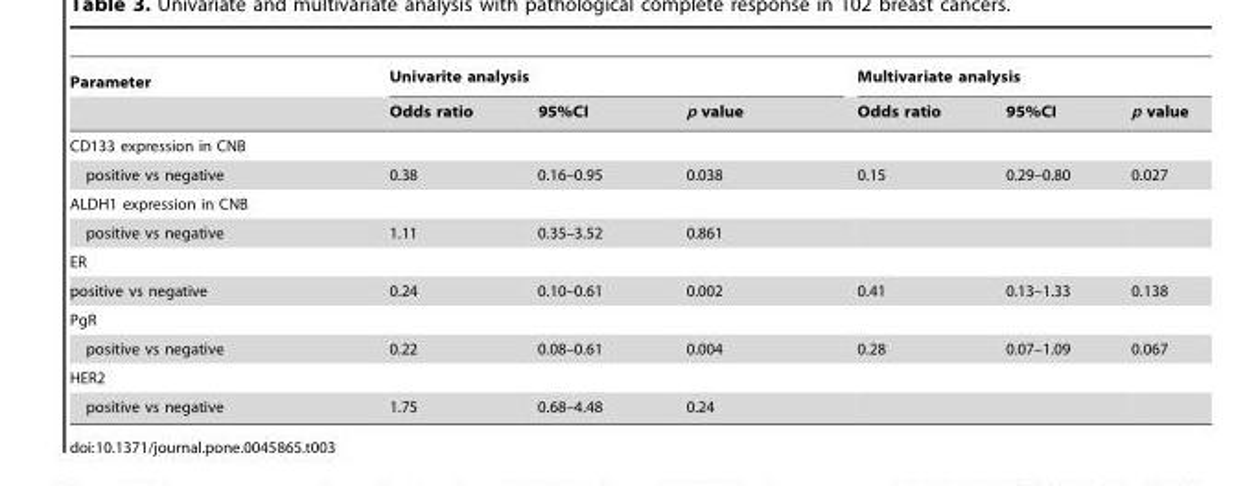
<table><thead><tr><td rowspan="2">Parameter</td><td colspan="3">Univarite analysis</td><td colspan="3">Multivariate analysis</td></tr><tr><td>Odds ratio</td><td>95%CI</td><td>p value</td><td>Odds ratio</td><td>95%CI</td><td>p value</td></tr></thead><tbody><tr><td colspan="7">CD133 expression in CNB</td></tr><tr><td>positive vs negative</td><td>0.38</td><td>0.16–0.95</td><td>0.038</td><td>0.15</td><td>0.29–0.80</td><td>0.027</td></tr><tr><td colspan="7">ALDH1 expression in CNB</td></tr><tr><td>positive vs negative</td><td>1.11</td><td>0.35–3.52</td><td>0.861</td><td></td><td></td><td></td></tr><tr><td colspan="7">ER</td></tr><tr><td>positive vs negative</td><td>0.24</td><td>0.10–0.61</td><td>0.002</td><td>0.41</td><td>0.13–1.33</td><td>0.138</td></tr><tr><td colspan="7">PgR</td></tr><tr><td>positive vs negative</td><td>0.22</td><td>0.08–0.61</td><td>0.004</td><td>0.28</td><td>0.07–1.09</td><td>0.067</td></tr><tr><td colspan="7">HER2</td></tr><tr><td>positive vs negative</td><td>1.75</td><td>0.68–4.48</td><td>0.24</td><td></td><td></td><td></td></tr></tbody></table>